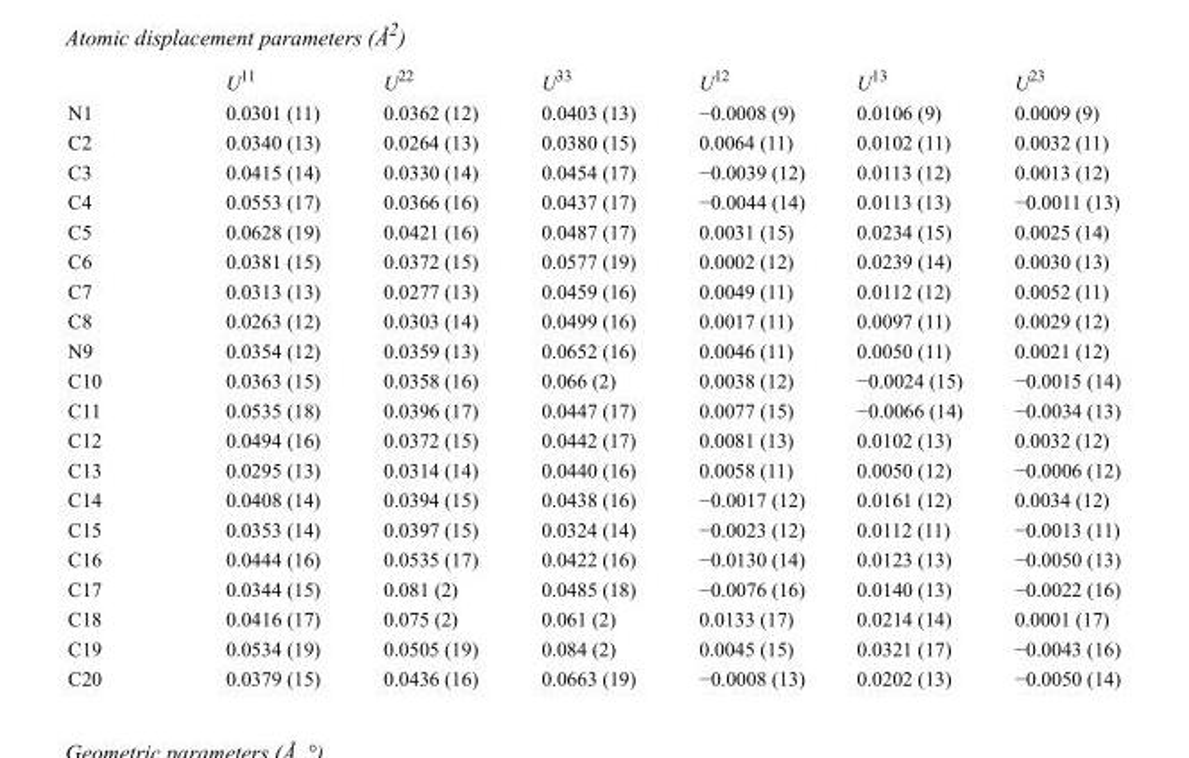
<table><thead><tr><td></td><td>U<sup>11</sup></td><td>U<sup>22</sup></td><td>U<sup>33</sup></td><td>U<sup>12</sup></td><td>U<sup>13</sup></td><td>U<sup>23</sup></td></tr></thead><tbody><tr><td>N1</td><td>0.0301 (11)</td><td>0.0362 (12)</td><td>0.0403 (13)</td><td>−0.0008 (9)</td><td>0.0106 (9)</td><td>0.0009 (9)</td></tr><tr><td>C2</td><td>0.0340 (13)</td><td>0.0264 (13)</td><td>0.0380 (15)</td><td>0.0064 (11)</td><td>0.0102 (11)</td><td>0.0032 (11)</td></tr><tr><td>C3</td><td>0.0415 (14)</td><td>0.0330 (14)</td><td>0.0454 (17)</td><td>−0.0039 (12)</td><td>0.0113 (12)</td><td>0.0013 (12)</td></tr><tr><td>C4</td><td>0.0553 (17)</td><td>0.0366 (16)</td><td>0.0437 (17)</td><td>−0.0044 (14)</td><td>0.0113 (13)</td><td>−0.0011 (13)</td></tr><tr><td>C5</td><td>0.0628 (19)</td><td>0.0421 (16)</td><td>0.0487 (17)</td><td>0.0031 (15)</td><td>0.0234 (15)</td><td>0.0025 (14)</td></tr><tr><td>C6</td><td>0.0381 (15)</td><td>0.0372 (15)</td><td>0.0577 (19)</td><td>0.0002 (12)</td><td>0.0239 (14)</td><td>0.0030 (13)</td></tr><tr><td>C7</td><td>0.0313 (13)</td><td>0.0277 (13)</td><td>0.0459 (16)</td><td>0.0049 (11)</td><td>0.0112 (12)</td><td>0.0052 (11)</td></tr><tr><td>C8</td><td>0.0263 (12)</td><td>0.0303 (14)</td><td>0.0499 (16)</td><td>0.0017 (11)</td><td>0.0097 (11)</td><td>0.0029 (12)</td></tr><tr><td>N9</td><td>0.0354 (12)</td><td>0.0359 (13)</td><td>0.0652 (16)</td><td>0.0046 (11)</td><td>0.0050 (11)</td><td>0.0021 (12)</td></tr><tr><td>C10</td><td>0.0363 (15)</td><td>0.0358 (16)</td><td>0.066 (2)</td><td>0.0038 (12)</td><td>−0.0024 (15)</td><td>−0.0015 (14)</td></tr><tr><td>C11</td><td>0.0535 (18)</td><td>0.0396 (17)</td><td>0.0447 (17)</td><td>0.0077 (15)</td><td>−0.0066 (14)</td><td>−0.0034 (13)</td></tr><tr><td>C12</td><td>0.0494 (16)</td><td>0.0372 (15)</td><td>0.0442 (17)</td><td>0.0081 (13)</td><td>0.0102 (13)</td><td>0.0032 (12)</td></tr><tr><td>C13</td><td>0.0295 (13)</td><td>0.0314 (14)</td><td>0.0440 (16)</td><td>0.0058 (11)</td><td>0.0050 (12)</td><td>−0.0006 (12)</td></tr><tr><td>C14</td><td>0.0408 (14)</td><td>0.0394 (15)</td><td>0.0438 (16)</td><td>−0.0017 (12)</td><td>0.0161 (12)</td><td>0.0034 (12)</td></tr><tr><td>C15</td><td>0.0353 (14)</td><td>0.0397 (15)</td><td>0.0324 (14)</td><td>−0.0023 (12)</td><td>0.0112 (11)</td><td>−0.0013 (11)</td></tr><tr><td>C16</td><td>0.0444 (16)</td><td>0.0535 (17)</td><td>0.0422 (16)</td><td>−0.0130 (14)</td><td>0.0123 (13)</td><td>−0.0050 (13)</td></tr><tr><td>C17</td><td>0.0344 (15)</td><td>0.081 (2)</td><td>0.0485 (18)</td><td>−0.0076 (16)</td><td>0.0140 (13)</td><td>−0.0022 (16)</td></tr><tr><td>C18</td><td>0.0416 (17)</td><td>0.075 (2)</td><td>0.061 (2)</td><td>0.0133 (17)</td><td>0.0214 (14)</td><td>0.0001 (17)</td></tr><tr><td>C19</td><td>0.0534 (19)</td><td>0.0505 (19)</td><td>0.084 (2)</td><td>0.0045 (15)</td><td>0.0321 (17)</td><td>−0.0043 (16)</td></tr><tr><td>C20</td><td>0.0379 (15)</td><td>0.0436 (16)</td><td>0.0663 (19)</td><td>−0.0008 (13)</td><td>0.0202 (13)</td><td>−0.0050 (14)</td></tr></tbody></table>